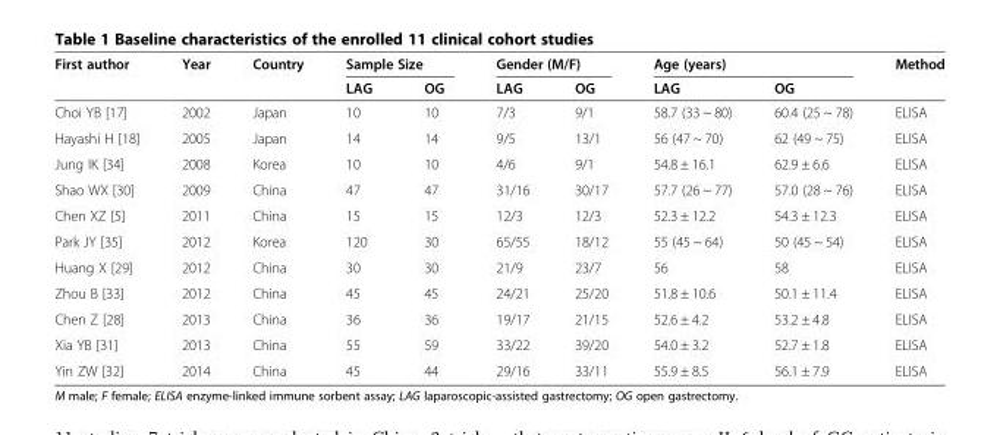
<table><thead><tr><td rowspan="2">First author</td><td rowspan="2">Year</td><td rowspan="2">Country</td><td colspan="2">Sample Size</td><td colspan="2">Gender (M/F)</td><td colspan="2">Age (years)</td><td rowspan="2">Method</td></tr><tr><td>LAG</td><td>OG</td><td>LAG</td><td>OG</td><td>LAG</td><td>OG</td></tr></thead><tbody><tr><td>Choi YB [17]</td><td>2002</td><td>Japan</td><td>10</td><td>10</td><td>7/3</td><td>9/1</td><td>58.7 (33 ~ 80)</td><td>60.4 (25 ~ 78)</td><td>ELISA</td></tr><tr><td>Hayashi H [18]</td><td>2005</td><td>Japan</td><td>14</td><td>14</td><td>9/5</td><td>13/1</td><td>56 (47 ~ 70)</td><td>62 (49 ~ 75)</td><td>ELISA</td></tr><tr><td>Jung IK [34]</td><td>2008</td><td>Korea</td><td>10</td><td>10</td><td>4/6</td><td>9/1</td><td>54.8 ± 16.1</td><td>62.9 ± 6.6</td><td>ELISA</td></tr><tr><td>Shao WX [30]</td><td>2009</td><td>China</td><td>47</td><td>47</td><td>31/16</td><td>30/17</td><td>57.7 (26 ~ 77)</td><td>57.0 (28 ~ 76)</td><td>ELISA</td></tr><tr><td>Chen XZ [5]</td><td>2011</td><td>China</td><td>15</td><td>15</td><td>12/3</td><td>12/3</td><td>52.3 ± 12.2</td><td>54.3 ± 12.3</td><td>ELISA</td></tr><tr><td>Park JY [35]</td><td>2012</td><td>Korea</td><td>120</td><td>30</td><td>65/55</td><td>18/12</td><td>55 (45 ~ 64)</td><td>50 (45 ~ 54)</td><td>ELISA</td></tr><tr><td>Huang X [29]</td><td>2012</td><td>China</td><td>30</td><td>30</td><td>21/9</td><td>23/7</td><td>56</td><td>58</td><td>ELISA</td></tr><tr><td>Zhou B [33]</td><td>2012</td><td>China</td><td>45</td><td>45</td><td>24/21</td><td>25/20</td><td>51.8 ± 10.6</td><td>50.1 ± 11.4</td><td>ELISA</td></tr><tr><td>Chen Z [28]</td><td>2013</td><td>China</td><td>36</td><td>36</td><td>19/17</td><td>21/15</td><td>52.6 ± 4.2</td><td>53.2 ± 4.8</td><td>ELISA</td></tr><tr><td>Xia YB [31]</td><td>2013</td><td>China</td><td>55</td><td>59</td><td>33/22</td><td>39/20</td><td>54.0 ± 3.2</td><td>52.7 ± 1.8</td><td>ELISA</td></tr><tr><td>Yin ZW [32]</td><td>2014</td><td>China</td><td>45</td><td>44</td><td>29/16</td><td>33/11</td><td>55.9 ± 8.5</td><td>56.1 ± 7.9</td><td>ELISA</td></tr></tbody></table>